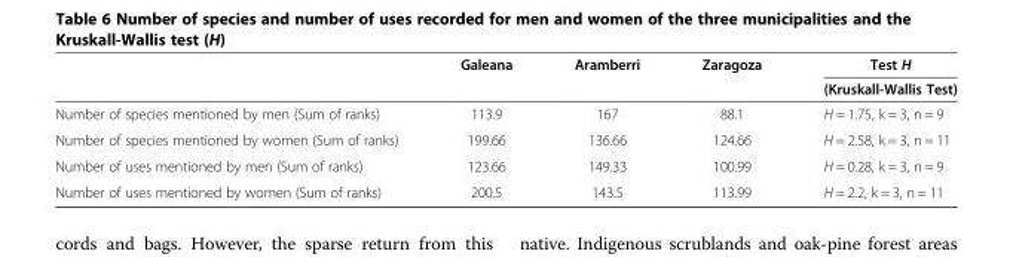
<table><thead><tr><td rowspan="2"></td><td rowspan="2">Galeana</td><td rowspan="2">Aramberri</td><td rowspan="2">Zaragoza</td><td rowspan="2">Test H (Kruskall-Wallis Test)</td></tr><tr></tr></thead><tbody><tr><td>Number of species mentioned by men (Sum of ranks)</td><td>113.9</td><td>167</td><td>88.1</td><td>H = 1.75, k = 3, n = 9</td></tr><tr><td>Number of species mentioned by women (Sum of ranks)</td><td>199.66</td><td>136.66</td><td>124.66</td><td>H = 2.58, k = 3, n = 11</td></tr><tr><td>Number of uses mentioned by men (Sum of ranks)</td><td>123.66</td><td>149.33</td><td>100.99</td><td>H = 0.28, k = 3, n = 9</td></tr><tr><td>Number of uses mentioned by women (Sum of ranks)</td><td>200.5</td><td>143.5</td><td>113.99</td><td>H = 2.2, k = 3, n = 11</td></tr></tbody></table>